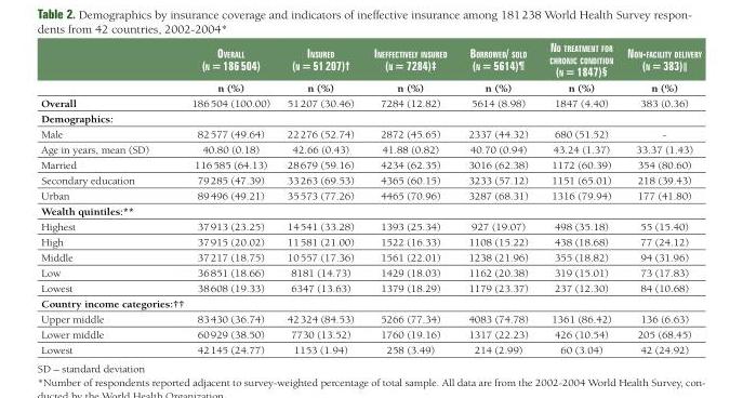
<table><thead><tr><td></td><td>overaLL (n = 186 504)</td><td>insUred (n = 51 207)†</td><td>ineffectiveLy insUred (n = 7284)‡</td><td>Borrowed/ soLd (n = 5614)¶</td><td>no treatment for chronic condition (n = 1847)§</td><td>non-faciLity deLivery (n = 383)‖</td></tr></thead><tbody><tr><td></td><td>n (%)</td><td>n (%)</td><td>n (%)</td><td>n (%)</td><td>n (%)</td><td>n (%)</td></tr><tr><td>Overall</td><td>186 504 (100.00)</td><td>51 207 (30.46)</td><td>7284 (12.82)</td><td>5614 (8.98)</td><td>1847 (4.40)</td><td>383 (0.36)</td></tr><tr><td colspan="7">Demographics:</td></tr><tr><td>Male</td><td>82 577 (49.64)</td><td>22 276 (52.74)</td><td>2872 (45.65)</td><td>2337 (44.32)</td><td>680 (51.52)</td><td>-</td></tr><tr><td>Age in years, mean (SD)</td><td>40.80 (0.18)</td><td>42.66 (0.43)</td><td>41.88 (0.82)</td><td>40.70 (0.94)</td><td>43.24 (1.37)</td><td>33.37 (1.43)</td></tr><tr><td>Married</td><td>116 585 (64.13)</td><td>28 679 (59.16)</td><td>4234 (62.35)</td><td>3016 (62.38)</td><td>1172 (60.39)</td><td>354 (80.60)</td></tr><tr><td>Secondary education</td><td>79 285 (47.39)</td><td>33 263 (69.53)</td><td>4365 (60.15)</td><td>3233 (57.12)</td><td>1151 (65.01)</td><td>218 (39.43)</td></tr><tr><td>Urban</td><td>89 496 (49.21)</td><td>35 573 (77.26)</td><td>4465 (70.96)</td><td>3287 (68.31)</td><td>1316 (79.94)</td><td>177 (41.80)</td></tr><tr><td colspan="7">Wealth quintiles:**</td></tr><tr><td>Highest</td><td>37 913 (23.25)</td><td>14 541 (33.28)</td><td>1393 (25.34)</td><td>927 (19.07)</td><td>498 (35.18)</td><td>55 (15.40)</td></tr><tr><td>High</td><td>37 915 (20.02)</td><td>11 581 (21.00)</td><td>1522 (16.33)</td><td>1108 (15.22)</td><td>438 (18.68)</td><td>77 (24.12)</td></tr><tr><td>Middle</td><td>37 217 (18.75)</td><td>10 557 (17.36)</td><td>1561 (22.01)</td><td>1238 (21.96)</td><td>355 (18.82)</td><td>94 (31.96)</td></tr><tr><td>Low</td><td>36 851 (18.66)</td><td>8181 (14.73)</td><td>1429 (18.03)</td><td>1162 (20.38)</td><td>319 (15.01)</td><td>73 (17.83)</td></tr><tr><td>Lowest</td><td>38 608 (19.33)</td><td>6347 (13.63)</td><td>1379 (18.29)</td><td>1179 (23.37)</td><td>237 (12.30)</td><td>84 (10.68)</td></tr><tr><td colspan="7">Country income categories:††</td></tr><tr><td>Upper middle</td><td>83 430 (36.74)</td><td>42 324 (84.53)</td><td>5266 (77.34)</td><td>4083 (74.78)</td><td>1361 (86.42)</td><td>136 (6.63)</td></tr><tr><td>Lower middle</td><td>60 929 (38.50)</td><td>7730 (13.52)</td><td>1760 (19.16)</td><td>1317 (22.23)</td><td>426 (10.54)</td><td>205 (68.45)</td></tr><tr><td>Lowest</td><td>42 145 (24.77)</td><td>1153 (1.94)</td><td>258 (3.49)</td><td>214 (2.99)</td><td>60 (3.04)</td><td>42 (24.92)</td></tr></tbody></table>